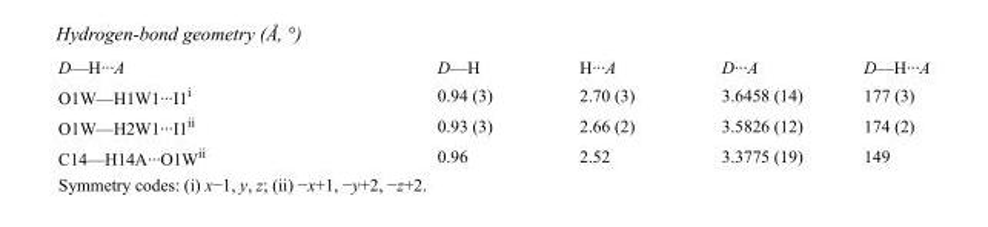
<table><tbody><tr><td>D—H···A</td><td>D—H</td><td>H···A</td><td>D···A</td><td>D—H···A</td></tr><tr><td>O1W—H1W1···I1<sup>i</sup></td><td>0.94 (3)</td><td>2.70 (3)</td><td>3.6458 (14)</td><td>177 (3)</td></tr><tr><td>O1W—H2W1···I1<sup>ii</sup></td><td>0.93 (3)</td><td>2.66 (2)</td><td>3.5826 (12)</td><td>174 (2)</td></tr><tr><td>C14—H14A···O1W<sup>ii</sup></td><td>0.96</td><td>2.52</td><td>3.3775 (19)</td><td>149</td></tr></tbody></table>